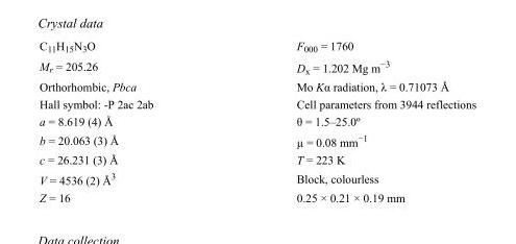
<table><tbody><tr><td>C<sub>11</sub>H<sub>15</sub>N<sub>3</sub>O</td><td>F000 = 1760</td></tr><tr><td>M<sub>r</sub> = 205.26</td><td>D<sub>x</sub> = 1.202 Mg m<sup>−3</sup></td></tr><tr><td>Orthorhombic, Pbca</td><td>Mo Kα radiation, λ = 0.71073 Å</td></tr><tr><td>Hall symbol: -P 2ac 2ab</td><td>Cell parameters from 3944 reflections</td></tr><tr><td>a = 8.619 (4) Å</td><td>θ = 1.5–25.0º</td></tr><tr><td>b = 20.063 (3) Å</td><td>µ = 0.08 mm<sup>−1</sup></td></tr><tr><td>c = 26.231 (3) Å</td><td>T = 223 K</td></tr><tr><td>V = 4536 (2) Å<sup>3</sup></td><td>Block, colourless</td></tr><tr><td>Z = 16</td><td>0.25 × 0.21 × 0.19 mm</td></tr></tbody></table>